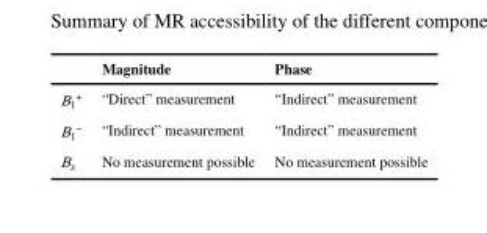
<table><thead><tr><td></td><td>Magnitude</td><td>Phase</td></tr></thead><tbody><tr><td>B<sub>1</sub><sup>+</sup></td><td>“Direct” measurement</td><td>“Indirect” measurement</td></tr><tr><td>B<sub>1</sub><sup>−</sup></td><td>“Indirect” measurement</td><td>“Indirect” measurement</td></tr><tr><td>B<sub>z</sub></td><td>No measurement possible</td><td>No measurement possible</td></tr></tbody></table>